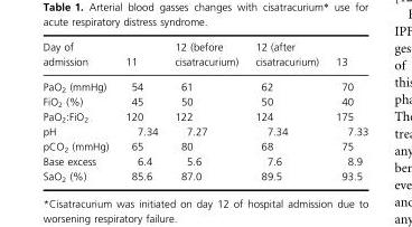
<table><thead><tr><td>Day of admission</td><td>11</td><td>12 (before cisatracurium)</td><td>12 (after cisatracurium)</td><td>13</td></tr></thead><tbody><tr><td>PaO<sub>2</sub> (mmHg)</td><td>54</td><td>61</td><td>62</td><td>70</td></tr><tr><td>FiO<sub>2</sub> (%)</td><td>45</td><td>50</td><td>50</td><td>40</td></tr><tr><td>PaO<sub>2</sub>:FiO<sub>2</sub></td><td>120</td><td>122</td><td>124</td><td>175</td></tr><tr><td>pH</td><td>7.34</td><td>7.27</td><td>7.34</td><td>7.33</td></tr><tr><td>pCO<sub>2</sub> (mmHg)</td><td>65</td><td>80</td><td>68</td><td>75</td></tr><tr><td>Base excess</td><td>6.4</td><td>5.6</td><td>7.6</td><td>8.9</td></tr><tr><td>SaO<sub>2</sub> (%)</td><td>85.6</td><td>87.0</td><td>89.5</td><td>93.5</td></tr></tbody></table>